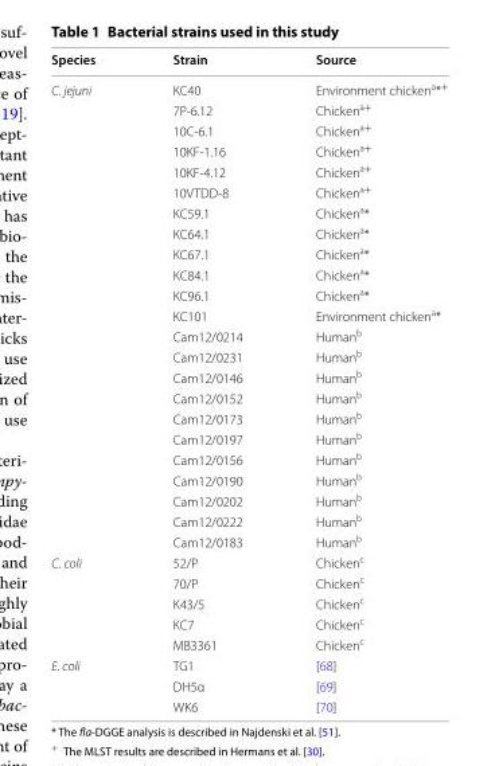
<table><thead><tr><td>Species</td><td>Strain</td><td>Source</td></tr></thead><tbody><tr><td rowspan="23">C. jejuni</td><td>KC40</td><td>Environment chicken<sup>a</sup>*<sup>+</sup></td></tr><tr><td>7P‑6.12</td><td>Chicken<sup>a+</sup></td></tr><tr><td>10C‑6.1</td><td>Chicken<sup>a+</sup></td></tr><tr><td>10KF‑1.16</td><td>Chicken<sup>a+</sup></td></tr><tr><td>10KF‑4.12</td><td>Chicken<sup>a+</sup></td></tr><tr><td>10VTDD‑8</td><td>Chicken<sup>a+</sup></td></tr><tr><td>KC59.1</td><td>Chicken<sup>a</sup>*</td></tr><tr><td>KC64.1</td><td>Chicken<sup>a</sup>*</td></tr><tr><td>KC67.1</td><td>Chicken<sup>a</sup>*</td></tr><tr><td>KC84.1</td><td>Chicken<sup>a</sup>*</td></tr><tr><td>KC96.1</td><td>Chicken<sup>a</sup>*</td></tr><tr><td>KC101</td><td>Environment chicken<sup>a</sup>*</td></tr><tr><td>Cam12/0214</td><td>Human<sup>b</sup></td></tr><tr><td>Cam12/0231</td><td>Human<sup>b</sup></td></tr><tr><td>Cam12/0146</td><td>Human<sup>b</sup></td></tr><tr><td>Cam12/0152</td><td>Human<sup>b</sup></td></tr><tr><td>Cam12/0173</td><td>Human<sup>b</sup></td></tr><tr><td>Cam12/0197</td><td>Human<sup>b</sup></td></tr><tr><td>Cam12/0156</td><td>Human<sup>b</sup></td></tr><tr><td>Cam12/0190</td><td>Human<sup>b</sup></td></tr><tr><td>Cam12/0202</td><td>Human<sup>b</sup></td></tr><tr><td>Cam12/0222</td><td>Human<sup>b</sup></td></tr><tr><td>Cam12/0183</td><td>Human<sup>b</sup></td></tr><tr><td rowspan="5">C. coli</td><td>52/P</td><td>Chicken<sup>c</sup></td></tr><tr><td>70/P</td><td>Chicken<sup>c</sup></td></tr><tr><td>K43/5</td><td>Chicken<sup>c</sup></td></tr><tr><td>KC7</td><td>Chicken<sup>c</sup></td></tr><tr><td>MB3361</td><td>Chicken<sup>c</sup></td></tr><tr><td rowspan="3">E. coli</td><td>TG1</td><td>[68]</td></tr><tr><td>DH5α</td><td>[69]</td></tr><tr><td>WK6</td><td>[70]</td></tr></tbody></table>